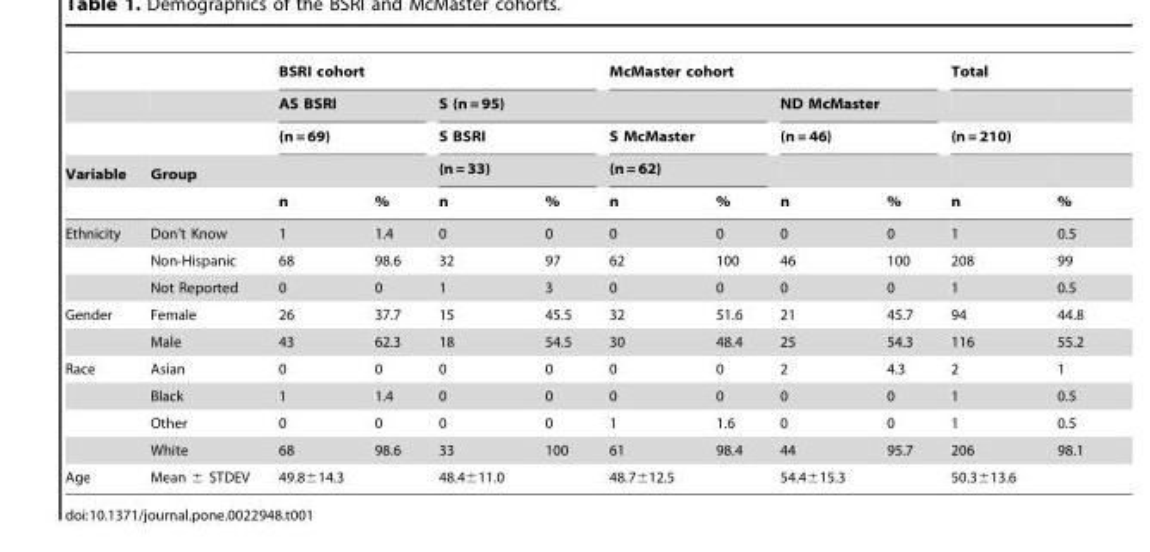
<table><thead><tr><td rowspan="5">Variable</td><td rowspan="5">Group</td><td colspan="4">BSRI cohort</td><td colspan="4">McMaster cohort</td><td colspan="2">Total</td></tr><tr><td rowspan="2" colspan="2">AS BSRI (n = 69)</td><td colspan="4">S (n = 95)</td><td rowspan="2" colspan="2">ND McMaster (n = 46)</td><td></td><td></td></tr><tr><td rowspan="2" colspan="2">S BSRI (n = 33)</td><td rowspan="2" colspan="2">S McMaster (n = 62)</td><td colspan="2">(n = 210)</td></tr><tr><td rowspan="2">n</td><td rowspan="2">%</td><td rowspan="2">n</td><td rowspan="2">%</td><td rowspan="2">n</td><td rowspan="2">%</td></tr><tr><td>n</td><td>%</td><td>n</td><td>%</td></tr></thead><tbody><tr><td rowspan="3">Ethnicity</td><td>Don’t Know</td><td>1</td><td>1.4</td><td>0</td><td>0</td><td>0</td><td>0</td><td>0</td><td>0</td><td>1</td><td>0.5</td></tr><tr><td>Non-Hispanic</td><td>68</td><td>98.6</td><td>32</td><td>97</td><td>62</td><td>100</td><td>46</td><td>100</td><td>208</td><td>99</td></tr><tr><td>Not Reported</td><td>0</td><td>0</td><td>1</td><td>3</td><td>0</td><td>0</td><td>0</td><td>0</td><td>1</td><td>0.5</td></tr><tr><td rowspan="2">Gender</td><td>Female</td><td>26</td><td>37.7</td><td>15</td><td>45.5</td><td>32</td><td>51.6</td><td>21</td><td>45.7</td><td>94</td><td>44.8</td></tr><tr><td>Male</td><td>43</td><td>62.3</td><td>18</td><td>54.5</td><td>30</td><td>48.4</td><td>25</td><td>54.3</td><td>116</td><td>55.2</td></tr><tr><td rowspan="4">Race</td><td>Asian</td><td>0</td><td>0</td><td>0</td><td>0</td><td>0</td><td>0</td><td>2</td><td>4.3</td><td>2</td><td>1</td></tr><tr><td>Black</td><td>1</td><td>1.4</td><td>0</td><td>0</td><td>0</td><td>0</td><td>0</td><td>0</td><td>1</td><td>0.5</td></tr><tr><td>Other</td><td>0</td><td>0</td><td>0</td><td>0</td><td>1</td><td>1.6</td><td>0</td><td>0</td><td>1</td><td>0.5</td></tr><tr><td>White</td><td>68</td><td>98.6</td><td>33</td><td>100</td><td>61</td><td>98.4</td><td>44</td><td>95.7</td><td>206</td><td>98.1</td></tr><tr><td>Age</td><td>Mean ± STDEV</td><td colspan="2">49.8±14.3</td><td colspan="2">48.4±11.0</td><td colspan="2">48.7±12.5</td><td colspan="2">54.4±15.3</td><td colspan="2">50.3±13.6</td></tr></tbody></table>